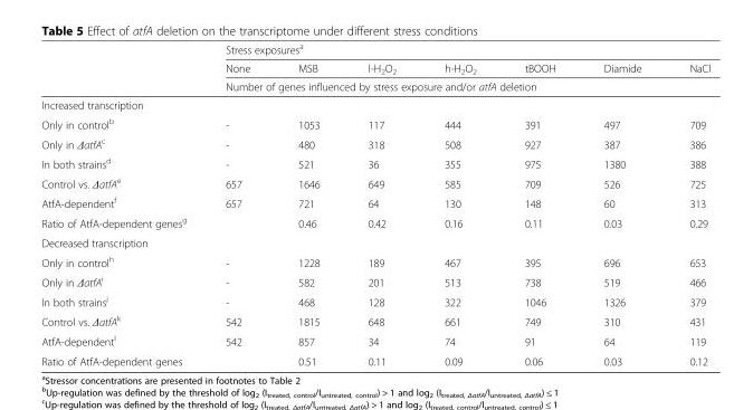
<table><thead><tr><td rowspan="3"></td><td colspan="7">Stress exposures<sup>a</sup></td></tr><tr><td>None</td><td>MSB</td><td>l-H<sub>2</sub>O<sub>2</sub></td><td>h-H<sub>2</sub>O<sub>2</sub></td><td>tBOOH</td><td>Diamide</td><td>NaCl</td></tr><tr><td colspan="7">Number of genes influenced by stress exposure and/or atfA deletion</td></tr></thead><tbody><tr><td colspan="8">Increased transcription</td></tr><tr><td>Only in control<sup>b</sup></td><td>-</td><td>1053</td><td>117</td><td>444</td><td>391</td><td>497</td><td>709</td></tr><tr><td>Only in ΔatfA<sup>c</sup></td><td>-</td><td>480</td><td>318</td><td>508</td><td>927</td><td>387</td><td>386</td></tr><tr><td>In both strains<sup>d</sup></td><td>-</td><td>521</td><td>36</td><td>355</td><td>975</td><td>1380</td><td>388</td></tr><tr><td>Control vs. ΔatfA<sup>e</sup></td><td>657</td><td>1646</td><td>649</td><td>585</td><td>709</td><td>526</td><td>725</td></tr><tr><td>AtfA-dependent<sup>f</sup></td><td>657</td><td>721</td><td>64</td><td>130</td><td>148</td><td>60</td><td>313</td></tr><tr><td>Ratio of AtfA-dependent genes<sup>g</sup></td><td></td><td>0.46</td><td>0.42</td><td>0.16</td><td>0.11</td><td>0.03</td><td>0.29</td></tr><tr><td colspan="8">Decreased transcription</td></tr><tr><td>Only in control<sup>h</sup></td><td>-</td><td>1228</td><td>189</td><td>467</td><td>395</td><td>696</td><td>653</td></tr><tr><td>Only in ΔatfA<sup>i</sup></td><td>-</td><td>582</td><td>201</td><td>513</td><td>738</td><td>519</td><td>466</td></tr><tr><td>In both strains<sup>j</sup></td><td>-</td><td>468</td><td>128</td><td>322</td><td>1046</td><td>1326</td><td>379</td></tr><tr><td>Control vs. ΔatfA<sup>k</sup></td><td>542</td><td>1815</td><td>648</td><td>661</td><td>749</td><td>310</td><td>431</td></tr><tr><td>AtfA-dependent<sup>l</sup></td><td>542</td><td>857</td><td>34</td><td>74</td><td>91</td><td>64</td><td>119</td></tr><tr><td>Ratio of AtfA-dependent genes</td><td></td><td>0.51</td><td>0.11</td><td>0.09</td><td>0.06</td><td>0.03</td><td>0.12</td></tr></tbody></table>